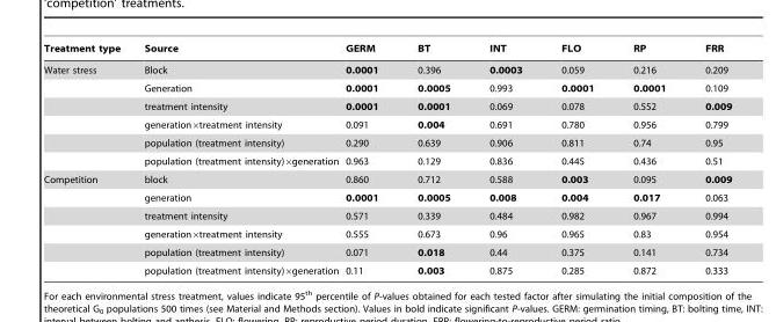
<table><thead><tr><td>Treatment type</td><td>Source</td><td>GERM</td><td>BT</td><td>INT</td><td>FLO</td><td>RP</td><td>FRR</td></tr></thead><tbody><tr><td rowspan="6">Water stress</td><td>Block</td><td>0.0001</td><td>0.396</td><td>0.0003</td><td>0.059</td><td>0.216</td><td>0.209</td></tr><tr><td>Generation</td><td>0.0001</td><td>0.0005</td><td>0.993</td><td>0.0001</td><td>0.0001</td><td>0.109</td></tr><tr><td>treatment intensity</td><td>0.0001</td><td>0.0001</td><td>0.069</td><td>0.078</td><td>0.552</td><td>0.009</td></tr><tr><td>generation×treatment intensity</td><td>0.091</td><td>0.004</td><td>0.691</td><td>0.780</td><td>0.956</td><td>0.799</td></tr><tr><td>population (treatment intensity)</td><td>0.290</td><td>0.639</td><td>0.906</td><td>0.811</td><td>0.74</td><td>0.95</td></tr><tr><td>population (treatment intensity)×generation</td><td>0.963</td><td>0.129</td><td>0.836</td><td>0.445</td><td>0.436</td><td>0.51</td></tr><tr><td rowspan="6">Competition</td><td>block</td><td>0.860</td><td>0.712</td><td>0.588</td><td>0.003</td><td>0.095</td><td>0.009</td></tr><tr><td>generation</td><td>0.0001</td><td>0.0005</td><td>0.008</td><td>0.004</td><td>0.017</td><td>0.063</td></tr><tr><td>treatment intensity</td><td>0.571</td><td>0.339</td><td>0.484</td><td>0.982</td><td>0.967</td><td>0.994</td></tr><tr><td>generation×treatment intensity</td><td>0.555</td><td>0.673</td><td>0.96</td><td>0.965</td><td>0.83</td><td>0.954</td></tr><tr><td>population (treatment intensity)</td><td>0.071</td><td>0.018</td><td>0.44</td><td>0.375</td><td>0.141</td><td>0.734</td></tr><tr><td>population (treatment intensity)×generation</td><td>0.11</td><td>0.003</td><td>0.875</td><td>0.285</td><td>0.872</td><td>0.333</td></tr></tbody></table>